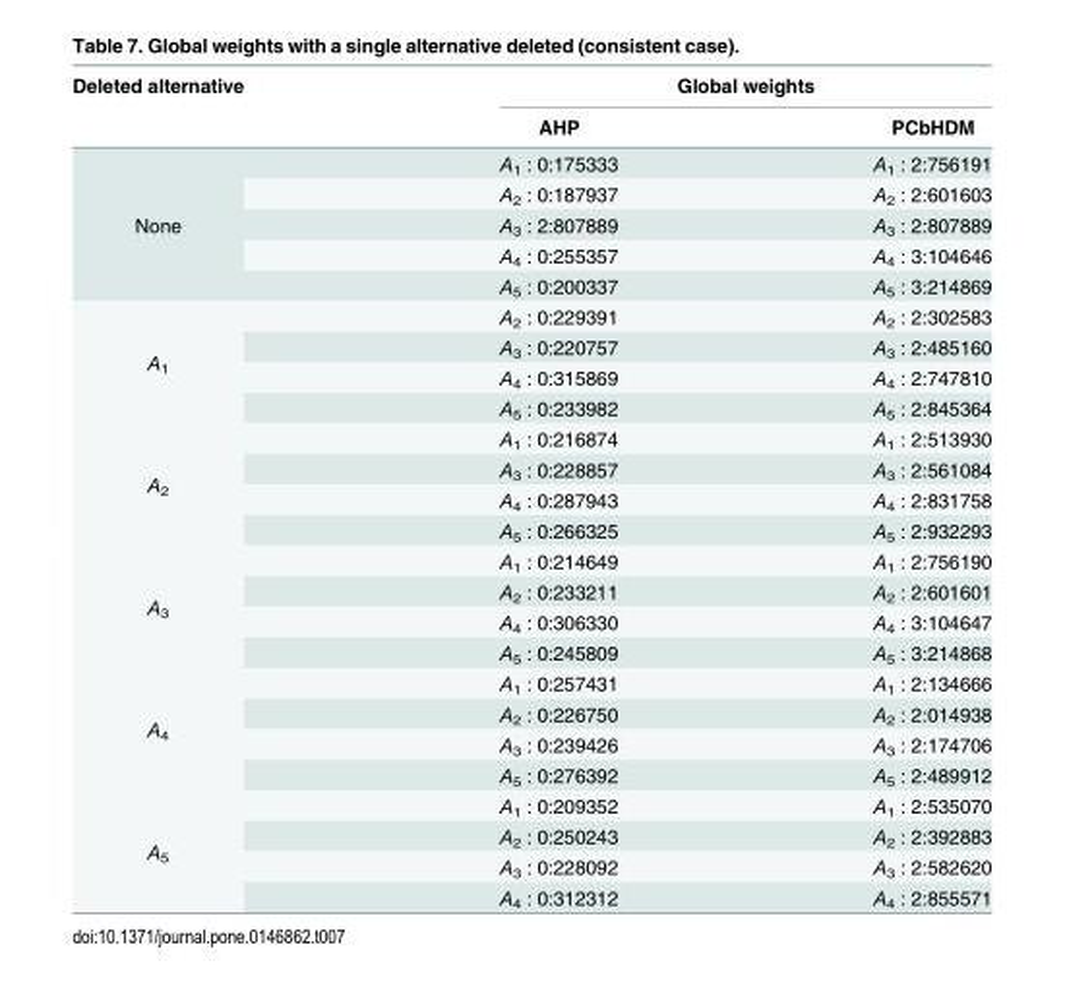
<table><thead><tr><td rowspan="2">Deleted alternative</td><td colspan="2">Global weights</td></tr><tr><td>AHP</td><td>PCbHDM</td></tr></thead><tbody><tr><td rowspan="5">None</td><td>A<sub>1</sub> : 0:175333</td><td>A<sub>1</sub> : 2:756191</td></tr><tr><td>A<sub>2</sub> : 0:187937</td><td>A<sub>2</sub> : 2:601603</td></tr><tr><td>A<sub>3</sub> : 2:807889</td><td>A<sub>3</sub> : 2:807889</td></tr><tr><td>A<sub>4</sub> : 0:255357</td><td>A<sub>4</sub> : 3:104646</td></tr><tr><td>A<sub>5</sub> : 0:200337</td><td>A<sub>5</sub> : 3:214869</td></tr><tr><td rowspan="4">A<sub>1</sub></td><td>A<sub>2</sub> : 0:229391</td><td>A<sub>2</sub> : 2:302583</td></tr><tr><td>A<sub>3</sub> : 0:220757</td><td>A<sub>3</sub> : 2:485160</td></tr><tr><td>A<sub>4</sub> : 0:315869</td><td>A<sub>4</sub> : 2:747810</td></tr><tr><td>A<sub>5</sub> : 0:233982</td><td>A<sub>5</sub> : 2:845364</td></tr><tr><td rowspan="4">A<sub>2</sub></td><td>A<sub>1</sub> : 0:216874</td><td>A<sub>1</sub> : 2:513930</td></tr><tr><td>A<sub>3</sub> : 0:228857</td><td>A<sub>3</sub> : 2:561084</td></tr><tr><td>A<sub>4</sub> : 0:287943</td><td>A<sub>4</sub> : 2:831758</td></tr><tr><td>A<sub>5</sub> : 0:266325</td><td>A<sub>5</sub> : 2:932293</td></tr><tr><td rowspan="4">A<sub>3</sub></td><td>A<sub>1</sub> : 0:214649</td><td>A<sub>1</sub> : 2:756190</td></tr><tr><td>A<sub>2</sub> : 0:233211</td><td>A<sub>2</sub> : 2:601601</td></tr><tr><td>A<sub>4</sub> : 0:306330</td><td>A<sub>4</sub> : 3:104647</td></tr><tr><td>A<sub>5</sub> : 0:245809</td><td>A<sub>5</sub> : 3:214868</td></tr><tr><td rowspan="4">A<sub>4</sub></td><td>A<sub>1</sub> : 0:257431</td><td>A<sub>1</sub> : 2:134666</td></tr><tr><td>A<sub>2</sub> : 0:226750</td><td>A<sub>2</sub> : 2:014938</td></tr><tr><td>A<sub>3</sub> : 0:239426</td><td>A<sub>3</sub> : 2:174706</td></tr><tr><td>A<sub>5</sub> : 0:276392</td><td>A<sub>5</sub> : 2:489912</td></tr><tr><td rowspan="4">A<sub>5</sub></td><td>A<sub>1</sub> : 0:209352</td><td>A<sub>1</sub> : 2:535070</td></tr><tr><td>A<sub>2</sub> : 0:250243</td><td>A<sub>2</sub> : 2:392883</td></tr><tr><td>A<sub>3</sub> : 0:228092</td><td>A<sub>3</sub> : 2:582620</td></tr><tr><td>A<sub>4</sub> : 0:312312</td><td>A<sub>4</sub> : 2:855571</td></tr></tbody></table>